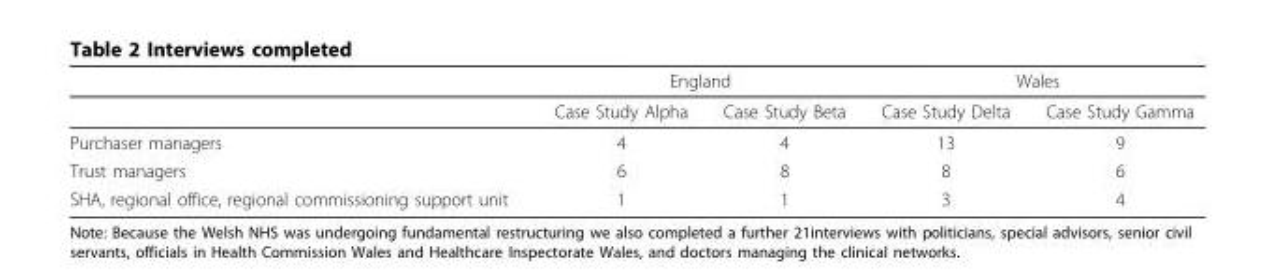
<table><thead><tr><td rowspan="2"></td><td colspan="2">England</td><td colspan="2">Wales</td></tr><tr><td>Case Study Alpha</td><td>Case Study Beta</td><td>Case Study Delta</td><td>Case Study Gamma</td></tr></thead><tbody><tr><td>Purchaser managers</td><td>4</td><td>4</td><td>13</td><td>9</td></tr><tr><td>Trust managers</td><td>6</td><td>8</td><td>8</td><td>6</td></tr><tr><td>SHA, regional office, regional commissioning support unit</td><td>1</td><td>1</td><td>3</td><td>4</td></tr></tbody></table>